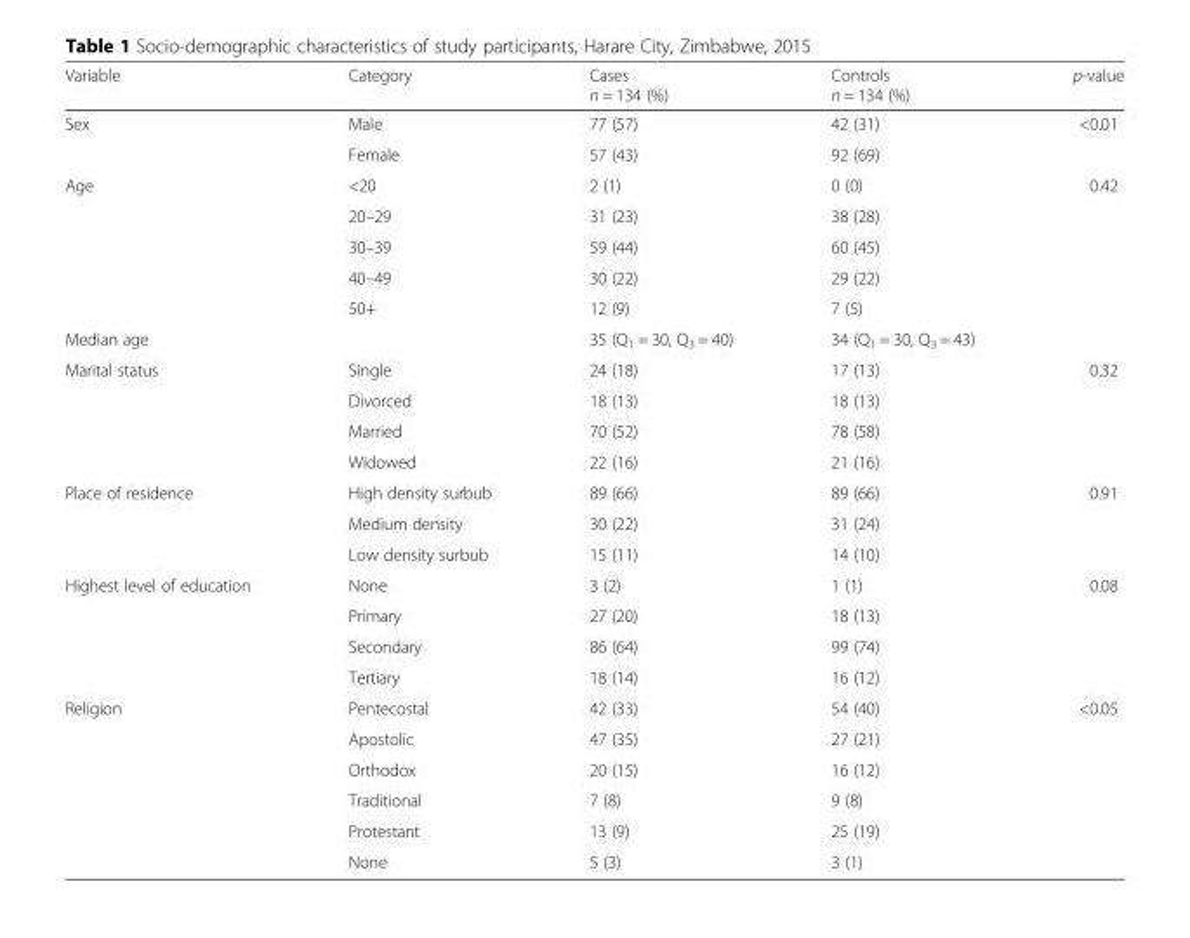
<table><thead><tr><td>Variable</td><td>Category</td><td>Cases n = 134 (%)</td><td>Controls n = 134 (%)</td><td>p-value</td></tr></thead><tbody><tr><td rowspan="2">Sex</td><td>Male</td><td>77 (57)</td><td>42 (31)</td><td>&lt;0.01</td></tr><tr><td>Female</td><td>57 (43)</td><td>92 (69)</td><td></td></tr><tr><td rowspan="5">Age</td><td>&lt;20</td><td>2 (1)</td><td>0 (0)</td><td>0.42</td></tr><tr><td>20–29</td><td>31 (23)</td><td>38 (28)</td><td></td></tr><tr><td>30–39</td><td>59 (44)</td><td>60 (45)</td><td></td></tr><tr><td>40–49</td><td>30 (22)</td><td>29 (22)</td><td></td></tr><tr><td>50+</td><td>12 (9)</td><td>7 (5)</td><td></td></tr><tr><td>Median age</td><td></td><td>35 (Q<sub>1</sub> = 30, Q<sub>3</sub> = 40)</td><td>34 (Q<sub>1</sub> = 30, Q<sub>3</sub> = 43)</td><td></td></tr><tr><td rowspan="4">Marital status</td><td>Single</td><td>24 (18)</td><td>17 (13)</td><td>0.32</td></tr><tr><td>Divorced</td><td>18 (13)</td><td>18 (13)</td><td></td></tr><tr><td>Married</td><td>70 (52)</td><td>78 (58)</td><td></td></tr><tr><td>Widowed</td><td>22 (16)</td><td>21 (16)</td><td></td></tr><tr><td rowspan="3">Place of residence</td><td>High density surbub</td><td>89 (66)</td><td>89 (66)</td><td>0.91</td></tr><tr><td>Medium density</td><td>30 (22)</td><td>31 (24)</td><td></td></tr><tr><td>Low density surbub</td><td>15 (11)</td><td>14 (10)</td><td></td></tr><tr><td rowspan="4">Highest level of education</td><td>None</td><td>3 (2)</td><td>1 (1)</td><td>0.08</td></tr><tr><td>Primary</td><td>27 (20)</td><td>18 (13)</td><td></td></tr><tr><td>Secondary</td><td>86 (64)</td><td>99 (74)</td><td></td></tr><tr><td>Tertiary</td><td>18 (14)</td><td>16 (12)</td><td></td></tr><tr><td rowspan="6">Religion</td><td>Pentecostal</td><td>42 (33)</td><td>54 (40)</td><td>&lt;0.05</td></tr><tr><td>Apostolic</td><td>47 (35)</td><td>27 (21)</td><td></td></tr><tr><td>Orthodox</td><td>20 (15)</td><td>16 (12)</td><td></td></tr><tr><td>Traditional</td><td>7 (8)</td><td>9 (8)</td><td></td></tr><tr><td>Protestant</td><td>13 (9)</td><td>25 (19)</td><td></td></tr><tr><td>None</td><td>5 (3)</td><td>3 (1)</td><td></td></tr></tbody></table>